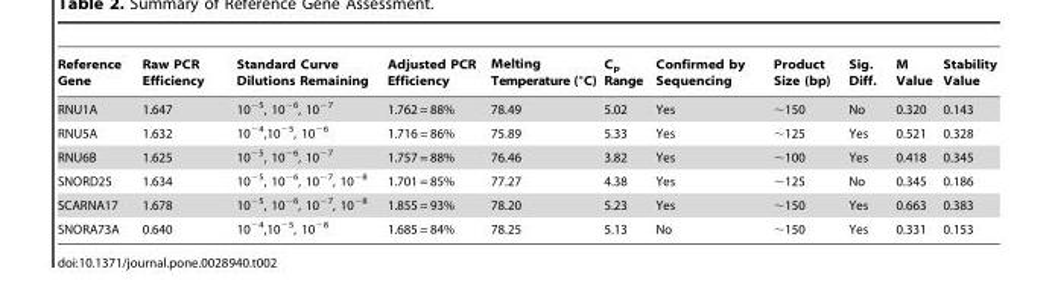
<table><thead><tr><td>Reference Gene</td><td>Raw PCR Efficiency</td><td>Standard Curve Dilutions Remaining</td><td>Adjusted PCR Efficiency</td><td>Melting Temperature (°C)</td><td>C<sub>p</sub> Range</td><td>Confirmed by Sequencing</td><td>Product Size (bp)</td><td>Sig. Diff.</td><td>M Value</td><td>Stability Value</td></tr></thead><tbody><tr><td>RNU1A</td><td>1.647</td><td>10<sup>−5</sup>, 10<sup>−6</sup>, 10<sup>−7</sup></td><td>1.762 = 88%</td><td>78.49</td><td>5.02</td><td>Yes</td><td>∼150</td><td>No</td><td>0.320</td><td>0.143</td></tr><tr><td>RNU5A</td><td>1.632</td><td>10<sup>−4</sup>,10<sup>−5</sup>, 10<sup>−6</sup></td><td>1.716 = 86%</td><td>75.89</td><td>5.33</td><td>Yes</td><td>∼125</td><td>Yes</td><td>0.521</td><td>0.328</td></tr><tr><td>RNU6B</td><td>1.625</td><td>10<sup>−5</sup>, 10<sup>−6</sup>, 10<sup>−7</sup></td><td>1.757 = 88%</td><td>76.46</td><td>3.82</td><td>Yes</td><td>∼100</td><td>Yes</td><td>0.418</td><td>0.345</td></tr><tr><td>SNORD25</td><td>1.634</td><td>10<sup>−5</sup>, 10<sup>−6</sup>, 10<sup>−7</sup>, 10<sup>−8</sup></td><td>1.701 = 85%</td><td>77.27</td><td>4.38</td><td>Yes</td><td>∼125</td><td>No</td><td>0.345</td><td>0.186</td></tr><tr><td>SCARNA17</td><td>1.678</td><td>10<sup>−5</sup>, 10<sup>−6</sup>, 10<sup>−7</sup>, 10<sup>−8</sup></td><td>1.855 = 93%</td><td>78.20</td><td>5.23</td><td>Yes</td><td>∼150</td><td>Yes</td><td>0.663</td><td>0.383</td></tr><tr><td>SNORA73A</td><td>0.640</td><td>10<sup>−4</sup>,10<sup>−5</sup>, 10<sup>−8</sup></td><td>1.685 = 84%</td><td>78.25</td><td>5.13</td><td>No</td><td>∼150</td><td>Yes</td><td>0.331</td><td>0.153</td></tr></tbody></table>